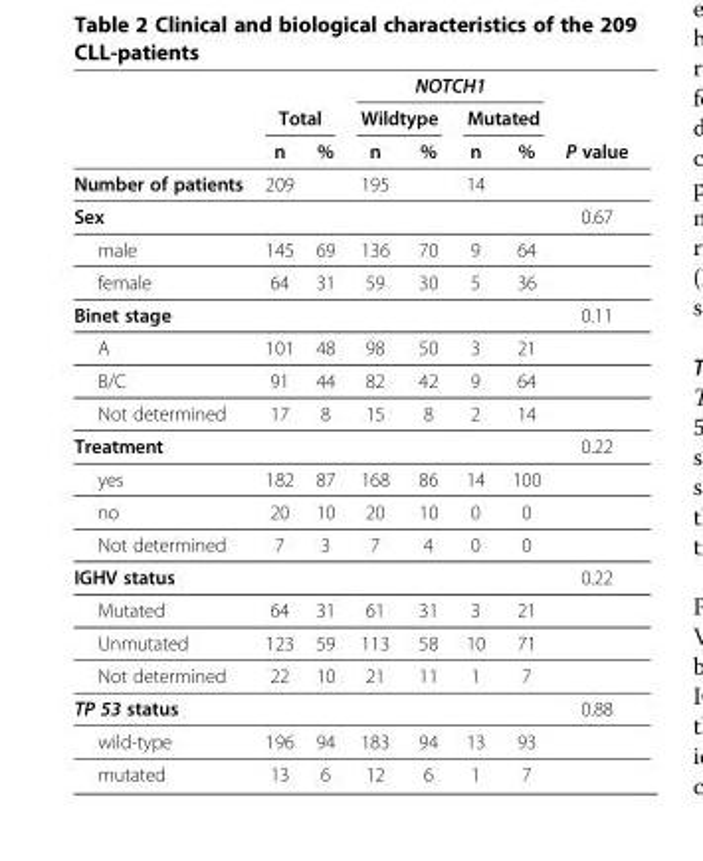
<table><thead><tr><td rowspan="3"></td><td></td><td></td><td colspan="4">NOTCH1</td><td rowspan="3">P value</td></tr><tr><td colspan="2">Total</td><td colspan="2">Wildtype</td><td colspan="2">Mutated</td></tr><tr><td>n</td><td>%</td><td>n</td><td>%</td><td>n</td><td>%</td></tr></thead><tbody><tr><td>Number of patients</td><td>209</td><td></td><td>195</td><td></td><td>14</td><td></td><td></td></tr><tr><td>Sex</td><td></td><td></td><td></td><td></td><td></td><td></td><td>0.67</td></tr><tr><td>male</td><td>145</td><td>69</td><td>136</td><td>70</td><td>9</td><td>64</td><td></td></tr><tr><td>female</td><td>64</td><td>31</td><td>59</td><td>30</td><td>5</td><td>36</td><td></td></tr><tr><td>Binet stage</td><td></td><td></td><td></td><td></td><td></td><td></td><td>0.11</td></tr><tr><td>A</td><td>101</td><td>48</td><td>98</td><td>50</td><td>3</td><td>21</td><td></td></tr><tr><td>B/C</td><td>91</td><td>44</td><td>82</td><td>42</td><td>9</td><td>64</td><td></td></tr><tr><td>Not determined</td><td>17</td><td>8</td><td>15</td><td>8</td><td>2</td><td>14</td><td></td></tr><tr><td>Treatment</td><td></td><td></td><td></td><td></td><td></td><td></td><td>0.22</td></tr><tr><td>yes</td><td>182</td><td>87</td><td>168</td><td>86</td><td>14</td><td>100</td><td></td></tr><tr><td>no</td><td>20</td><td>10</td><td>20</td><td>10</td><td>0</td><td>0</td><td></td></tr><tr><td>Not determined</td><td>7</td><td>3</td><td>7</td><td>4</td><td>0</td><td>0</td><td></td></tr><tr><td>IGHV status</td><td></td><td></td><td></td><td></td><td></td><td></td><td>0.22</td></tr><tr><td>Mutated</td><td>64</td><td>31</td><td>61</td><td>31</td><td>3</td><td>21</td><td></td></tr><tr><td>Unmutated</td><td>123</td><td>59</td><td>113</td><td>58</td><td>10</td><td>71</td><td></td></tr><tr><td>Not determined</td><td>22</td><td>10</td><td>21</td><td>11</td><td>1</td><td>7</td><td></td></tr><tr><td>TP 53 status</td><td></td><td></td><td></td><td></td><td></td><td></td><td>0.88</td></tr><tr><td>wild-type</td><td>196</td><td>94</td><td>183</td><td>94</td><td>13</td><td>93</td><td></td></tr><tr><td>mutated</td><td>13</td><td>6</td><td>12</td><td>6</td><td>1</td><td>7</td><td></td></tr></tbody></table>